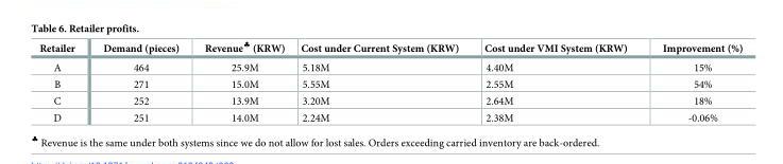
<table><thead><tr><td>Retailer</td><td>Demand (pieces)</td><td>Revenue<sup>♣</sup> (KRW)</td><td>Cost under Current System (KRW)</td><td>Cost under VMI System (KRW)</td><td>Improvement (%)</td></tr></thead><tbody><tr><td>A</td><td>464</td><td>25.9M</td><td>5.18M</td><td>4.40M</td><td>15%</td></tr><tr><td>B</td><td>271</td><td>15.0M</td><td>5.55M</td><td>2.55M</td><td>54%</td></tr><tr><td>C</td><td>252</td><td>13.9M</td><td>3.20M</td><td>2.64M</td><td>18%</td></tr><tr><td>D</td><td>251</td><td>14.0M</td><td>2.24M</td><td>2.38M</td><td>-0.06%</td></tr></tbody></table>